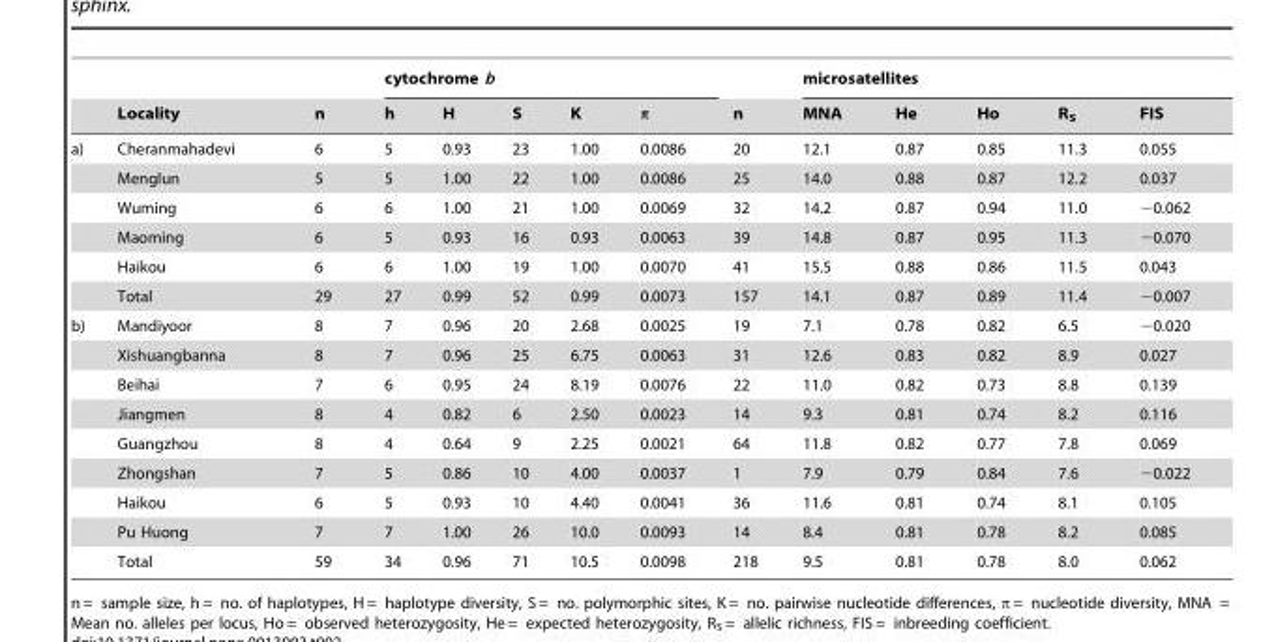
<table><thead><tr><td rowspan="2"></td><td rowspan="2">Locality</td><td rowspan="2">n</td><td colspan="5">cytochrome b</td><td rowspan="2">n</td><td colspan="5">microsatellites</td></tr><tr><td>h</td><td>H</td><td>S</td><td>K</td><td>π</td><td>MNA</td><td>He</td><td>Ho</td><td>R<sub>S</sub></td><td>FIS</td></tr></thead><tbody><tr><td rowspan="6">a)</td><td>Cheranmahadevi</td><td>6</td><td>5</td><td>0.93</td><td>23</td><td>1.00</td><td>0.0086</td><td>20</td><td>12.1</td><td>0.87</td><td>0.85</td><td>11.3</td><td>0.055</td></tr><tr><td>Menglun</td><td>5</td><td>5</td><td>1.00</td><td>22</td><td>1.00</td><td>0.0086</td><td>25</td><td>14.0</td><td>0.88</td><td>0.87</td><td>12.2</td><td>0.037</td></tr><tr><td>Wuming</td><td>6</td><td>6</td><td>1.00</td><td>21</td><td>1.00</td><td>0.0069</td><td>32</td><td>14.2</td><td>0.87</td><td>0.94</td><td>11.0</td><td>−0.062</td></tr><tr><td>Maoming</td><td>6</td><td>5</td><td>0.93</td><td>16</td><td>0.93</td><td>0.0063</td><td>39</td><td>14.8</td><td>0.87</td><td>0.95</td><td>11.3</td><td>−0.070</td></tr><tr><td>Haikou</td><td>6</td><td>6</td><td>1.00</td><td>19</td><td>1.00</td><td>0.0070</td><td>41</td><td>15.5</td><td>0.88</td><td>0.86</td><td>11.5</td><td>0.043</td></tr><tr><td>Total</td><td>29</td><td>27</td><td>0.99</td><td>52</td><td>0.99</td><td>0.0073</td><td>157</td><td>14.1</td><td>0.87</td><td>0.89</td><td>11.4</td><td>−0.007</td></tr><tr><td rowspan="9">b)</td><td>Mandiyoor</td><td>8</td><td>7</td><td>0.96</td><td>20</td><td>2.68</td><td>0.0025</td><td>19</td><td>7.1</td><td>0.78</td><td>0.82</td><td>6.5</td><td>−0.020</td></tr><tr><td>Xishuangbanna</td><td>8</td><td>7</td><td>0.96</td><td>25</td><td>6.75</td><td>0.0063</td><td>31</td><td>12.6</td><td>0.83</td><td>0.82</td><td>8.9</td><td>0.027</td></tr><tr><td>Beihai</td><td>7</td><td>6</td><td>0.95</td><td>24</td><td>8.19</td><td>0.0076</td><td>22</td><td>11.0</td><td>0.82</td><td>0.73</td><td>8.8</td><td>0.139</td></tr><tr><td>Jiangmen</td><td>8</td><td>4</td><td>0.82</td><td>6</td><td>2.50</td><td>0.0023</td><td>14</td><td>9.3</td><td>0.81</td><td>0.74</td><td>8.2</td><td>0.116</td></tr><tr><td>Guangzhou</td><td>8</td><td>4</td><td>0.64</td><td>9</td><td>2.25</td><td>0.0021</td><td>64</td><td>11.8</td><td>0.82</td><td>0.77</td><td>7.8</td><td>0.069</td></tr><tr><td>Zhongshan</td><td>7</td><td>5</td><td>0.86</td><td>10</td><td>4.00</td><td>0.0037</td><td>1</td><td>7.9</td><td>0.79</td><td>0.84</td><td>7.6</td><td>−0.022</td></tr><tr><td>Haikou</td><td>6</td><td>5</td><td>0.93</td><td>10</td><td>4.40</td><td>0.0041</td><td>36</td><td>11.6</td><td>0.81</td><td>0.74</td><td>8.1</td><td>0.105</td></tr><tr><td>Pu Huong</td><td>7</td><td>7</td><td>1.00</td><td>26</td><td>10.0</td><td>0.0093</td><td>14</td><td>8.4</td><td>0.81</td><td>0.78</td><td>8.2</td><td>0.085</td></tr><tr><td>Total</td><td>59</td><td>34</td><td>0.96</td><td>71</td><td>10.5</td><td>0.0098</td><td>218</td><td>9.5</td><td>0.81</td><td>0.78</td><td>8.0</td><td>0.062</td></tr></tbody></table>